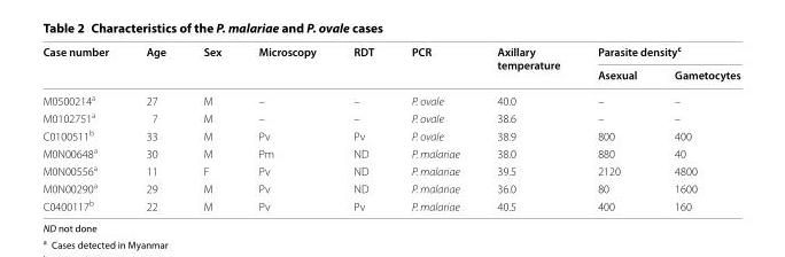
<table><thead><tr><td rowspan="2">Case number</td><td rowspan="2">Age</td><td rowspan="2">Sex</td><td rowspan="2">Microscopy</td><td rowspan="2">RDT</td><td rowspan="2">PCR</td><td rowspan="2">Axillary temperature</td><td colspan="2">Parasite density<sup>c</sup></td></tr><tr><td>Asexual</td><td>Gametocytes</td></tr></thead><tbody><tr><td>M0500214<sup>a</sup></td><td>27</td><td>M</td><td>–</td><td>–</td><td>P. ovale</td><td>40.0</td><td>–</td><td>–</td></tr><tr><td>M0102751<sup>a</sup></td><td>7</td><td>M</td><td>–</td><td>–</td><td>P. ovale</td><td>38.6</td><td>–</td><td>–</td></tr><tr><td>C0100511<sup>b</sup></td><td>33</td><td>M</td><td>Pv</td><td>Pv</td><td>P. ovale</td><td>38.9</td><td>800</td><td>400</td></tr><tr><td>M0N00648<sup>a</sup></td><td>30</td><td>M</td><td>Pm</td><td>ND</td><td>P. malariae</td><td>38.0</td><td>880</td><td>40</td></tr><tr><td>M0N00556<sup>a</sup></td><td>11</td><td>F</td><td>Pv</td><td>ND</td><td>P. malariae</td><td>39.5</td><td>2120</td><td>4800</td></tr><tr><td>M0N00290<sup>a</sup></td><td>29</td><td>M</td><td>Pv</td><td>ND</td><td>P. malariae</td><td>36.0</td><td>80</td><td>1600</td></tr><tr><td>C0400117<sup>b</sup></td><td>22</td><td>M</td><td>Pv</td><td>Pv</td><td>P. malariae</td><td>40.5</td><td>400</td><td>160</td></tr></tbody></table>